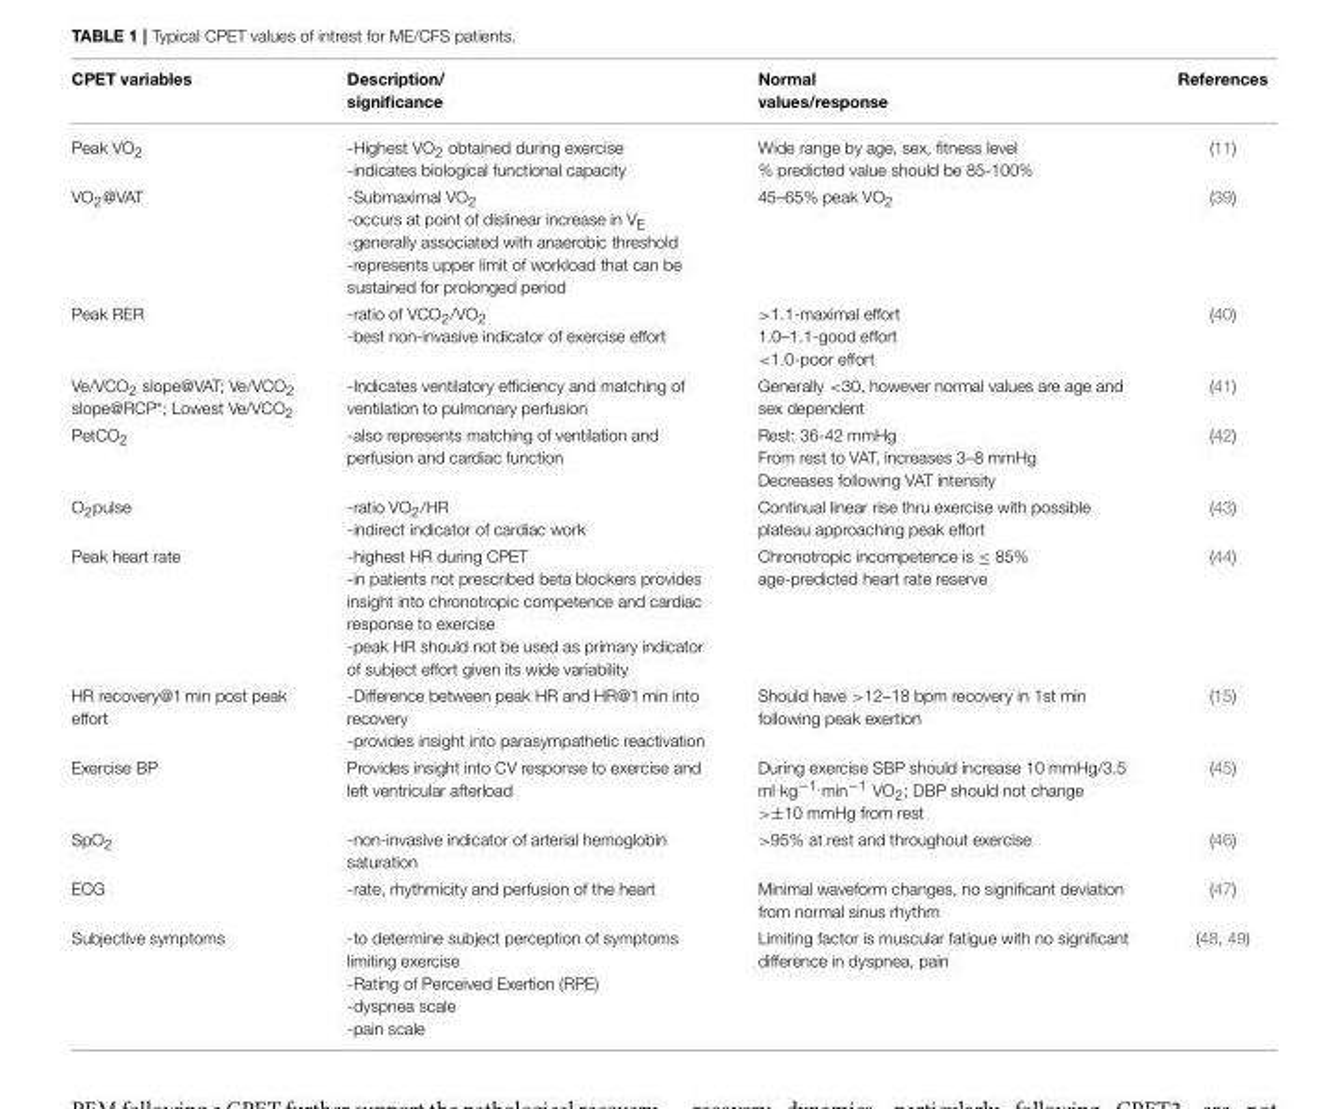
<table><thead><tr><td>CPET variables</td><td>Description/ significance</td><td>Normal values/response</td><td>References</td></tr></thead><tbody><tr><td>Peak VO<sub>2</sub></td><td>-Highest VO<sub>2</sub> obtained during exercise -indicates biological functional capacity</td><td>Wide range by age, sex, fitness level % predicted value should be 85-100%</td><td>(11)</td></tr><tr><td>VO<sub>2</sub>@VAT</td><td>-Submaximal VO<sub>2</sub> -occurs at point of dislinear increase in V<sub>E</sub> -generally associated with anaerobic threshold -represents upper limit of workload that can be sustained for prolonged period</td><td>45–65% peak VO<sub>2</sub></td><td>(39)</td></tr><tr><td>Peak RER</td><td>-ratio of VCO<sub>2</sub>/VO<sub>2</sub> -best non-invasive indicator of exercise effort</td><td>&gt;1.1-maximal effort 1.0–1.1-good effort &lt;1.0-poor effort</td><td>(40)</td></tr><tr><td>Ve/VCO<sub>2</sub> slope@VAT; Ve/VCO<sub>2</sub> slope@RCP*; Lowest Ve/VCO<sub>2</sub></td><td>-Indicates ventilatory efficiency and matching of ventilation to pulmonary perfusion</td><td>Generally &lt;30, however normal values are age and sex dependent</td><td>(41)</td></tr><tr><td>PetCO<sub>2</sub></td><td>-also represents matching of ventilation and perfusion and cardiac function</td><td>Rest: 36-42 mmHg From rest to VAT, increases 3–8 mmHg Decreases following VAT intensity</td><td>(42)</td></tr><tr><td>O<sub>2</sub>pulse</td><td>-ratio VO<sub>2</sub>/HR -indirect indicator of cardiac work</td><td>Continual linear rise thru exercise with possible plateau approaching peak effort</td><td>(43)</td></tr><tr><td>Peak heart rate</td><td>-highest HR during CPET -in patients not prescribed beta blockers provides insight into chronotropic competence and cardiac response to exercise -peak HR should not be used as primary indicator of subject effort given its wide variability</td><td>Chronotropic incompetence is ≤ 85% age-predicted heart rate reserve</td><td>(44)</td></tr><tr><td>HR recovery@1 min post peak effort</td><td>-Difference between peak HR and HR@1 min into recovery -provides insight into parasympathetic reactivation</td><td>Should have &gt;12–18 bpm recovery in 1st min following peak exertion</td><td>(15)</td></tr><tr><td>Exercise BP</td><td>Provides insight into CV response to exercise and left ventricular afterload</td><td>During exercise SBP should increase 10 mmHg/3.5 ml<sup>.</sup>kg<sup>−1.</sup>min<sup>−1</sup> VO<sub>2</sub>; DBP should not change &gt;±10 mmHg from rest</td><td>(45)</td></tr><tr><td>SpO<sub>2</sub></td><td>-non-invasive indicator of arterial hemoglobin saturation</td><td>&gt;95% at rest and throughout exercise</td><td>(46)</td></tr><tr><td>ECG</td><td>-rate, rhythmicity and perfusion of the heart</td><td>Minimal waveform changes, no significant deviation from normal sinus rhythm</td><td>(47)</td></tr><tr><td>Subjective symptoms</td><td>-to determine subject perception of symptoms limiting exercise -Rating of Perceived Exertion (RPE) -dyspnea scale -pain scale</td><td>Limiting factor is muscular fatigue with no significant difference in dyspnea, pain</td><td>(48, 49)</td></tr></tbody></table>